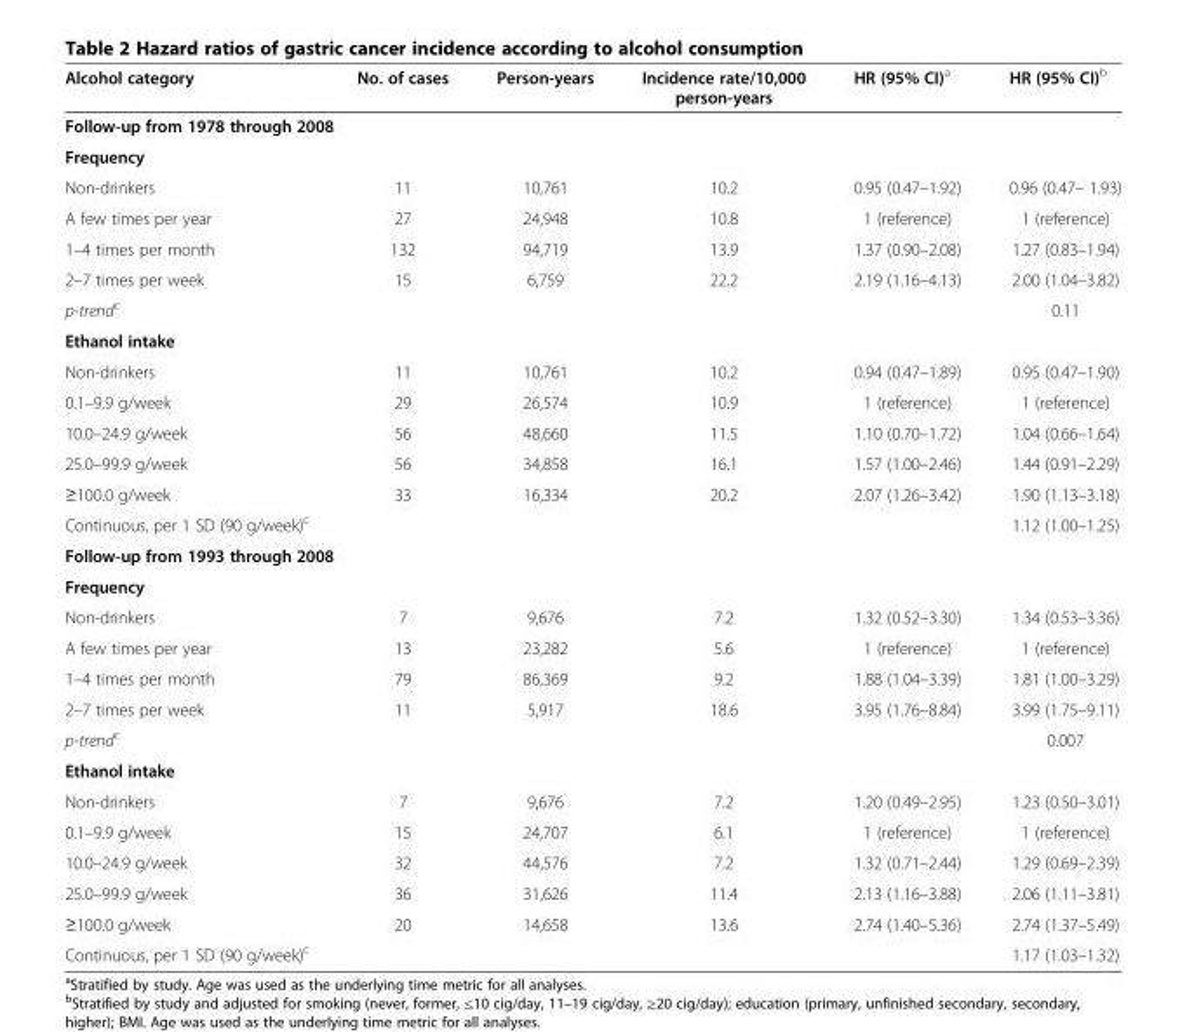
<table><thead><tr><td>Alcohol category</td><td>No. of cases</td><td>Person-years</td><td>Incidence rate/10,000 person-years</td><td>HR (95% CI)<sup>a</sup></td><td>HR (95% CI)<sup>b</sup></td></tr></thead><tbody><tr><td colspan="6">Follow-up from 1978 through 2008</td></tr><tr><td colspan="6">Frequency</td></tr><tr><td>Non-drinkers</td><td>11</td><td>10,761</td><td>10.2</td><td>0.95 (0.47–1.92)</td><td>0.96 (0.47– 1.93)</td></tr><tr><td>A few times per year</td><td>27</td><td>24,948</td><td>10.8</td><td>1 (reference)</td><td>1 (reference)</td></tr><tr><td>1–4 times per month</td><td>132</td><td>94,719</td><td>13.9</td><td>1.37 (0.90–2.08)</td><td>1.27 (0.83–1.94)</td></tr><tr><td>2–7 times per week</td><td>15</td><td>6,759</td><td>22.2</td><td>2.19 (1.16–4.13)</td><td>2.00 (1.04–3.82)</td></tr><tr><td>p-trend<sup>c</sup></td><td></td><td></td><td></td><td></td><td>0.11</td></tr><tr><td colspan="6">Ethanol intake</td></tr><tr><td>Non-drinkers</td><td>11</td><td>10,761</td><td>10.2</td><td>0.94 (0.47–1.89)</td><td>0.95 (0.47–1.90)</td></tr><tr><td>0.1–9.9 g/week</td><td>29</td><td>26,574</td><td>10.9</td><td>1 (reference)</td><td>1 (reference)</td></tr><tr><td>10.0–24.9 g/week</td><td>56</td><td>48,660</td><td>11.5</td><td>1.10 (0.70–1.72)</td><td>1.04 (0.66–1.64)</td></tr><tr><td>25.0–99.9 g/week</td><td>56</td><td>34,858</td><td>16.1</td><td>1.57 (1.00–2.46)</td><td>1.44 (0.91–2.29)</td></tr><tr><td>≥100.0 g/week</td><td>33</td><td>16,334</td><td>20.2</td><td>2.07 (1.26–3.42)</td><td>1.90 (1.13–3.18)</td></tr><tr><td>Continuous, per 1 SD (90 g/week)<sup>c</sup></td><td></td><td></td><td></td><td></td><td>1.12 (1.00–1.25)</td></tr><tr><td colspan="6">Follow-up from 1993 through 2008</td></tr><tr><td colspan="6">Frequency</td></tr><tr><td>Non-drinkers</td><td>7</td><td>9,676</td><td>7.2</td><td>1.32 (0.52–3.30)</td><td>1.34 (0.53–3.36)</td></tr><tr><td>A few times per year</td><td>13</td><td>23,282</td><td>5.6</td><td>1 (reference)</td><td>1 (reference)</td></tr><tr><td>1–4 times per month</td><td>79</td><td>86,369</td><td>9.2</td><td>1.88 (1.04–3.39)</td><td>1.81 (1.00–3.29)</td></tr><tr><td>2–7 times per week</td><td>11</td><td>5,917</td><td>18.6</td><td>3.95 (1.76–8.84)</td><td>3.99 (1.75–9.11)</td></tr><tr><td>p-trend<sup>c</sup></td><td></td><td></td><td></td><td></td><td>0.007</td></tr><tr><td colspan="6">Ethanol intake</td></tr><tr><td>Non-drinkers</td><td>7</td><td>9,676</td><td>7.2</td><td>1.20 (0.49–2.95)</td><td>1.23 (0.50–3.01)</td></tr><tr><td>0.1–9.9 g/week</td><td>15</td><td>24,707</td><td>6.1</td><td>1 (reference)</td><td>1 (reference)</td></tr><tr><td>10.0–24.9 g/week</td><td>32</td><td>44,576</td><td>7.2</td><td>1.32 (0.71–2.44)</td><td>1.29 (0.69–2.39)</td></tr><tr><td>25.0–99.9 g/week</td><td>36</td><td>31,626</td><td>11.4</td><td>2.13 (1.16–3.88)</td><td>2.06 (1.11–3.81)</td></tr><tr><td>≥100.0 g/week</td><td>20</td><td>14,658</td><td>13.6</td><td>2.74 (1.40–5.36)</td><td>2.74 (1.37–5.49)</td></tr><tr><td>Continuous, per 1 SD (90 g/week)<sup>c</sup></td><td></td><td></td><td></td><td></td><td>1.17 (1.03–1.32)</td></tr></tbody></table>